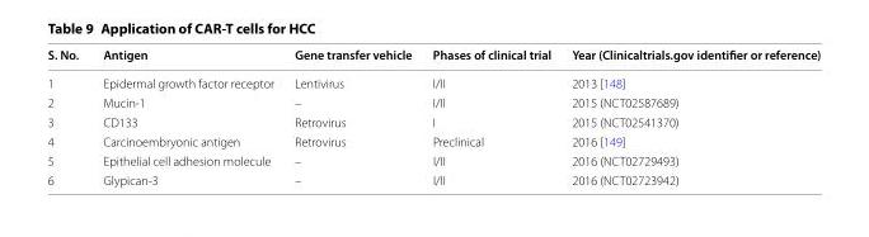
<table><thead><tr><td>S. No.</td><td>Antigen</td><td>Gene transfer vehicle</td><td>Phases of clinical trial</td><td>Year (Clinicaltrials.gov identifier or reference)</td></tr></thead><tbody><tr><td>1</td><td>Epidermal growth factor receptor</td><td>Lentivirus</td><td>I/II</td><td>2013 [148]</td></tr><tr><td>2</td><td>Mucin‑1</td><td>–</td><td>I/II</td><td>2015 (NCT02587689)</td></tr><tr><td>3</td><td>CD133</td><td>Retrovirus</td><td>I</td><td>2015 (NCT02541370)</td></tr><tr><td>4</td><td>Carcinoembryonic antigen</td><td>Retrovirus</td><td>Preclinical</td><td>2016 [149]</td></tr><tr><td>5</td><td>Epithelial cell adhesion molecule</td><td>–</td><td>I/II</td><td>2016 (NCT02729493)</td></tr><tr><td>6</td><td>Glypican‑3</td><td>–</td><td>I/II</td><td>2016 (NCT02723942)</td></tr></tbody></table>